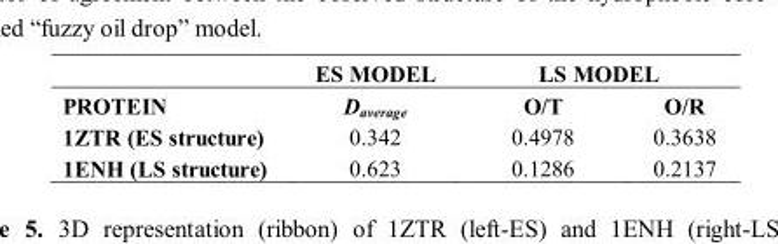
<table><thead><tr><td rowspan="2">PROTEIN</td><td rowspan="2">ES MODEL Daverage</td><td colspan="2">LS MODEL</td></tr><tr><td>O/T</td><td>O/R</td></tr></thead><tbody><tr><td>1ZTR (ES structure)</td><td>0.342</td><td>0.4978</td><td>0.3638</td></tr><tr><td>1ENH (LS structure)</td><td>0.623</td><td>0.1286</td><td>0.2137</td></tr></tbody></table>